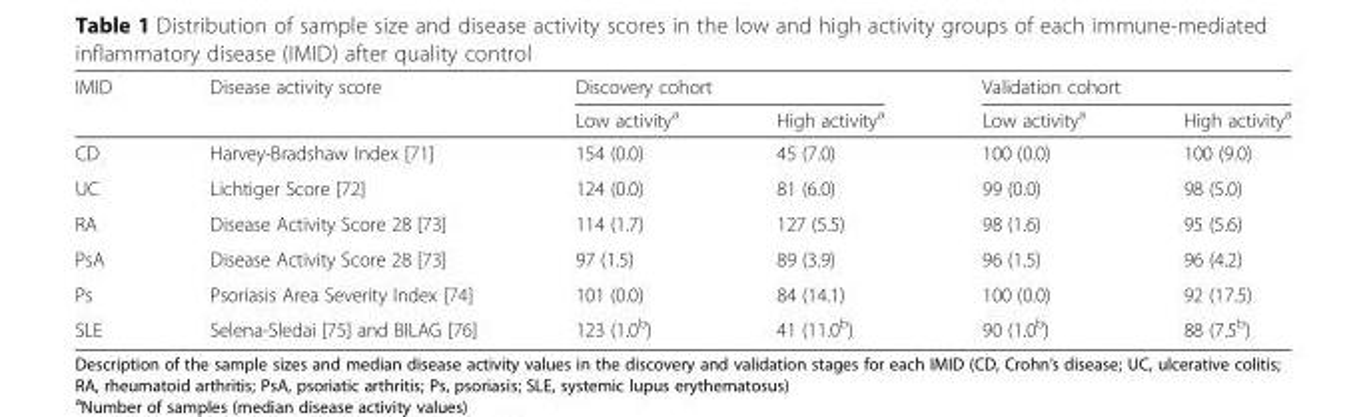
<table><thead><tr><td rowspan="2">IMID</td><td rowspan="2">Disease activity score</td><td colspan="2">Discovery cohort</td><td colspan="2">Validation cohort</td></tr><tr><td>Low activity<sup>a</sup></td><td>High activity<sup>a</sup></td><td>Low activity<sup>a</sup></td><td>High activity<sup>a</sup></td></tr></thead><tbody><tr><td>CD</td><td>Harvey-Bradshaw Index [71]</td><td>154 (0.0)</td><td>45 (7.0)</td><td>100 (0.0)</td><td>100 (9.0)</td></tr><tr><td>UC</td><td>Lichtiger Score [72]</td><td>124 (0.0)</td><td>81 (6.0)</td><td>99 (0.0)</td><td>98 (5.0)</td></tr><tr><td>RA</td><td>Disease Activity Score 28 [73]</td><td>114 (1.7)</td><td>127 (5.5)</td><td>98 (1.6)</td><td>95 (5.6)</td></tr><tr><td>PsA</td><td>Disease Activity Score 28 [73]</td><td>97 (1.5)</td><td>89 (3.9)</td><td>96 (1.5)</td><td>96 (4.2)</td></tr><tr><td>Ps</td><td>Psoriasis Area Severity Index [74]</td><td>101 (0.0)</td><td>84 (14.1)</td><td>100 (0.0)</td><td>92 (17.5)</td></tr><tr><td>SLE</td><td>Selena-Sledai [75] and BILAG [76]</td><td>123 (1.0<sup>b</sup>)</td><td>41 (11.0<sup>b</sup>)</td><td>90 (1.0<sup>b</sup>)</td><td>88 (7.5<sup>b</sup>)</td></tr></tbody></table>